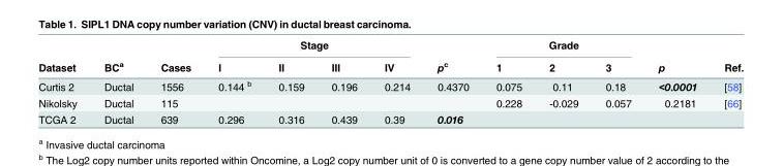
<table><thead><tr><td rowspan="2">Dataset</td><td rowspan="2">BC<sup>a</sup></td><td rowspan="2">Cases</td><td colspan="4">Stage</td><td rowspan="2">p<sup>c</sup></td><td colspan="3">Grade</td><td rowspan="2">p</td><td rowspan="2">Ref.</td></tr><tr><td>I</td><td>II</td><td>III</td><td>IV</td><td>1</td><td>2</td><td>3</td></tr></thead><tbody><tr><td>Curtis 2</td><td>Ductal</td><td>1556</td><td>0.144 <sup>b</sup></td><td>0.159</td><td>0.196</td><td>0.214</td><td>0.4370</td><td>0.075</td><td>0.11</td><td>0.18</td><td>&lt;0.0001</td><td>[58]</td></tr><tr><td>Nikolsky</td><td>Ductal</td><td>115</td><td></td><td></td><td></td><td></td><td></td><td>0.228</td><td>-0.029</td><td>0.057</td><td>0.2181</td><td>[66]</td></tr><tr><td>TCGA 2</td><td>Ductal</td><td>639</td><td>0.296</td><td>0.316</td><td>0.439</td><td>0.39</td><td>0.016</td><td></td><td></td><td></td><td></td><td></td></tr></tbody></table>